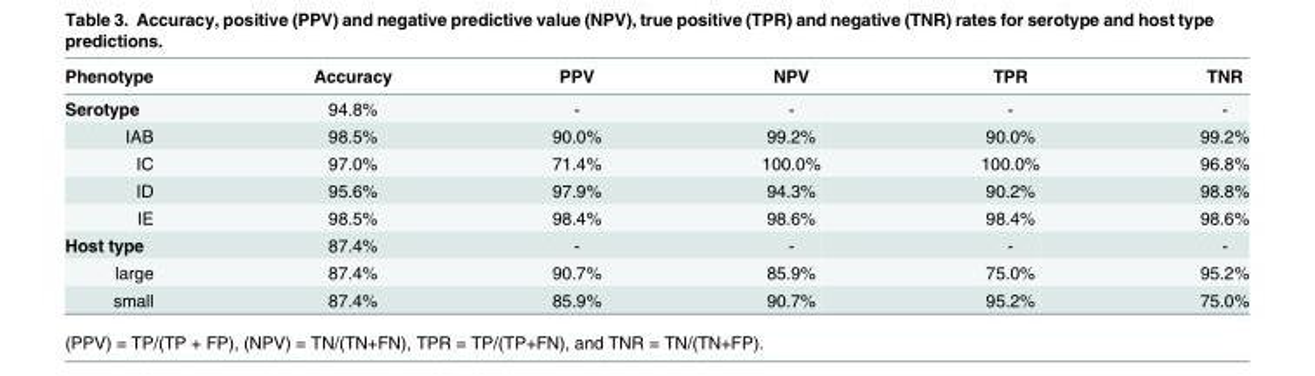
<table><thead><tr><td>Phenotype</td><td>Accuracy</td><td>PPV</td><td>NPV</td><td>TPR</td><td>TNR</td></tr></thead><tbody><tr><td>Serotype</td><td>94.8%</td><td>-</td><td>-</td><td>-</td><td>-</td></tr><tr><td>IAB</td><td>98.5%</td><td>90.0%</td><td>99.2%</td><td>90.0%</td><td>99.2%</td></tr><tr><td>IC</td><td>97.0%</td><td>71.4%</td><td>100.0%</td><td>100.0%</td><td>96.8%</td></tr><tr><td>ID</td><td>95.6%</td><td>97.9%</td><td>94.3%</td><td>90.2%</td><td>98.8%</td></tr><tr><td>IE</td><td>98.5%</td><td>98.4%</td><td>98.6%</td><td>98.4%</td><td>98.6%</td></tr><tr><td>Host type</td><td>87.4%</td><td>-</td><td>-</td><td>-</td><td>-</td></tr><tr><td>large</td><td>87.4%</td><td>90.7%</td><td>85.9%</td><td>75.0%</td><td>95.2%</td></tr><tr><td>small</td><td>87.4%</td><td>85.9%</td><td>90.7%</td><td>95.2%</td><td>75.0%</td></tr></tbody></table>